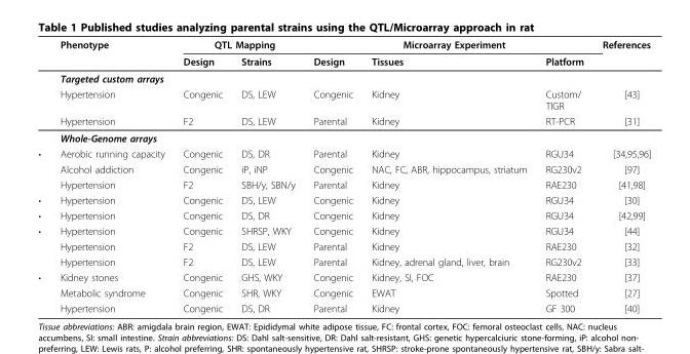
<table><thead><tr><td rowspan="2"></td><td rowspan="2">Phenotype</td><td colspan="2">QTL Mapping</td><td colspan="3">Microarray Experiment</td><td rowspan="2">References</td></tr><tr><td>Design</td><td>Strains</td><td>Design</td><td>Tissues</td><td>Platform</td></tr></thead><tbody><tr><td></td><td colspan="7">Targeted custom arrays</td></tr><tr><td></td><td>Hypertension</td><td>Congenic</td><td>DS, LEW</td><td>Congenic</td><td>Kidney</td><td>Custom/ TIGR</td><td>[43]</td></tr><tr><td></td><td>Hypertension</td><td>F2</td><td>DS, LEW</td><td>Parental</td><td>Kidney</td><td>RT-PCR</td><td>[31]</td></tr><tr><td></td><td>Whole-Genome arrays</td><td></td><td></td><td></td><td></td><td></td><td></td></tr><tr><td rowspan="3">•</td><td>Aerobic running capacity</td><td>Congenic</td><td>DS, DR</td><td>Parental</td><td>Kidney</td><td>RGU34</td><td>[34,95,96]</td></tr><tr><td>Alcohol addiction</td><td>Congenic</td><td>iP, iNP</td><td>Congenic</td><td>NAC, FC, ABR, hippocampus, striatum</td><td>RG230v2</td><td>[97]</td></tr><tr><td>Hypertension</td><td>F2</td><td>SBH/y, SBN/y</td><td>Parental</td><td>Kidney</td><td>RAE230</td><td>[41,98]</td></tr><tr><td>•</td><td>Hypertension</td><td>Congenic</td><td>DS, LEW</td><td>Congenic</td><td>Kidney</td><td>RGU34</td><td>[30]</td></tr><tr><td>•</td><td>Hypertension</td><td>Congenic</td><td>DS, DR</td><td>Congenic</td><td>Kidney</td><td>RGU34</td><td>[42,99]</td></tr><tr><td rowspan="3">•</td><td>Hypertension</td><td>Congenic</td><td>SHRSP, WKY</td><td>Congenic</td><td>Kidney</td><td>RGU34</td><td>[44]</td></tr><tr><td>Hypertension</td><td>F2</td><td>DS, LEW</td><td>Parental</td><td>Kidney</td><td>RAE230</td><td>[32]</td></tr><tr><td>Hypertension</td><td>F2</td><td>DS, LEW</td><td>Parental</td><td>Kidney, adrenal gland, liver, brain</td><td>RG230v2</td><td>[33]</td></tr><tr><td rowspan="3">•</td><td>Kidney stones</td><td>Congenic</td><td>GHS, WKY</td><td>Congenic</td><td>Kidney, SI, FOC</td><td>RAE230</td><td>[37]</td></tr><tr><td>Metabolic syndrome</td><td>Congenic</td><td>SHR, WKY</td><td>Congenic</td><td>EWAT</td><td>Spotted</td><td>[27]</td></tr><tr><td>Hypertension</td><td>Congenic</td><td>DS, DR</td><td>Parental</td><td>Kidney</td><td>GF 300</td><td>[40]</td></tr></tbody></table>